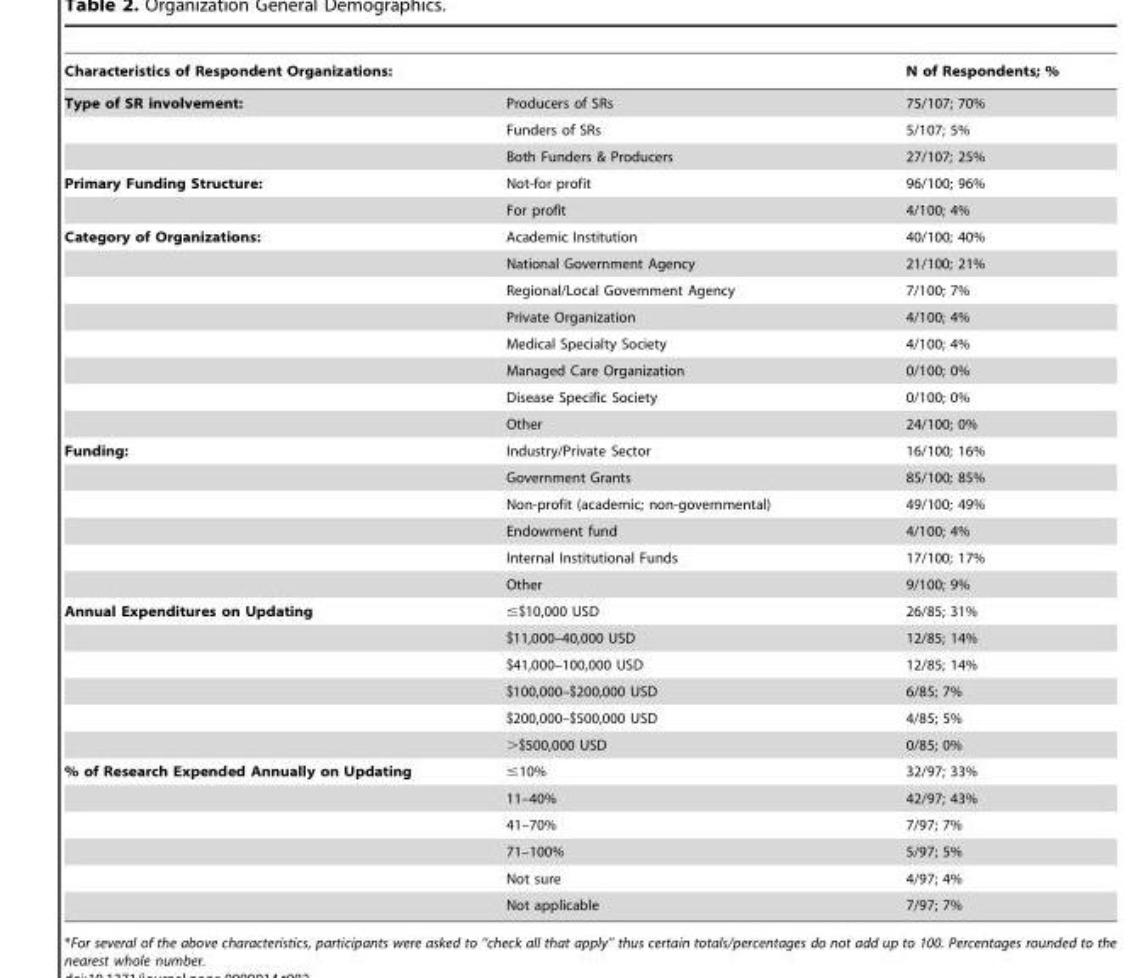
<table><thead><tr><td colspan="2">Characteristics of Respondent Organizations:</td><td rowspan="2">N of Respondents; % 75/107; 70%</td></tr><tr><td>Type of SR involvement:</td><td>Producers of SRs</td></tr></thead><tbody><tr><td></td><td>Funders of SRs</td><td>5/107; 5%</td></tr><tr><td></td><td>Both Funders &amp; Producers</td><td>27/107; 25%</td></tr><tr><td rowspan="2">Primary Funding Structure:</td><td>Not-for profit</td><td>96/100; 96%</td></tr><tr><td>For profit</td><td>4/100; 4%</td></tr><tr><td rowspan="8">Category of Organizations:</td><td>Academic Institution</td><td>40/100; 40%</td></tr><tr><td>National Government Agency</td><td>21/100; 21%</td></tr><tr><td>Regional/Local Government Agency</td><td>7/100; 7%</td></tr><tr><td>Private Organization</td><td>4/100; 4%</td></tr><tr><td>Medical Specialty Society</td><td>4/100; 4%</td></tr><tr><td>Managed Care Organization</td><td>0/100; 0%</td></tr><tr><td>Disease Specific Society</td><td>0/100; 0%</td></tr><tr><td>Other</td><td>24/100; 0%</td></tr><tr><td rowspan="6">Funding:</td><td>Industry/Private Sector</td><td>16/100; 16%</td></tr><tr><td>Government Grants</td><td>85/100; 85%</td></tr><tr><td>Non-profit (academic; non-governmental)</td><td>49/100; 49%</td></tr><tr><td>Endowment fund</td><td>4/100; 4%</td></tr><tr><td>Internal Institutional Funds</td><td>17/100; 17%</td></tr><tr><td>Other</td><td>9/100; 9%</td></tr><tr><td rowspan="6">Annual Expenditures on Updating</td><td>≤$10,000 USD</td><td>26/85; 31%</td></tr><tr><td>$11,000–40,000 USD</td><td>12/85; 14%</td></tr><tr><td>$41,000–100,000 USD</td><td>12/85; 14%</td></tr><tr><td>$100,000–$200,000 USD</td><td>6/85; 7%</td></tr><tr><td>$200,000–$500,000 USD</td><td>4/85; 5%</td></tr><tr><td>&gt;$500,000 USD</td><td>0/85; 0%</td></tr><tr><td rowspan="6">% of Research Expended Annually on Updating</td><td>≤10%</td><td>32/97; 33%</td></tr><tr><td>11–40%</td><td>42/97; 43%</td></tr><tr><td>41–70%</td><td>7/97; 7%</td></tr><tr><td>71–100%</td><td>5/97; 5%</td></tr><tr><td>Not sure</td><td>4/97; 4%</td></tr><tr><td>Not applicable</td><td>7/97; 7%</td></tr></tbody></table>